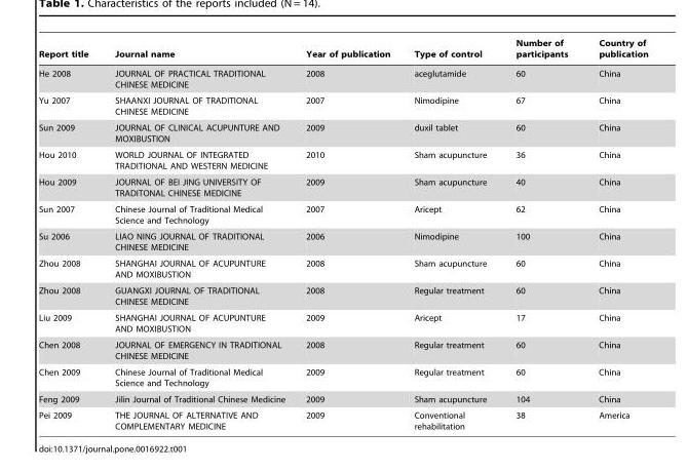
<table><thead><tr><td>Report title</td><td>Journal name</td><td>Year of publication</td><td>Type of control</td><td>Number of participants</td><td>Country of publication</td></tr></thead><tbody><tr><td>He 2008</td><td>JOURNAL OF PRACTICAL TRADITIONAL CHINESE MEDICINE</td><td>2008</td><td>aceglutamide</td><td>60</td><td>China</td></tr><tr><td>Yu 2007</td><td>SHAANXI JOURNAL OF TRADITIONAL CHINESE MEDICINE</td><td>2007</td><td>Nimodipine</td><td>67</td><td>China</td></tr><tr><td>Sun 2009</td><td>JOURNAL OF CLINICAL ACUPUNTURE AND MOXIBUSTION</td><td>2009</td><td>duxil tablet</td><td>60</td><td>China</td></tr><tr><td>Hou 2010</td><td>WORLD JOURNAL OF INTEGRATED TRADITIONAL AND WESTERN MEDICINE</td><td>2010</td><td>Sham acupuncture</td><td>36</td><td>China</td></tr><tr><td>Hou 2009</td><td>JOURNAL OF BEI JING UNIVERSITY OF TRADITONAL CHINESE MEDICINE</td><td>2009</td><td>Sham acupuncture</td><td>40</td><td>China</td></tr><tr><td>Sun 2007</td><td>Chinese Journal of Traditional Medical Science and Technology</td><td>2007</td><td>Aricept</td><td>62</td><td>China</td></tr><tr><td>Su 2006</td><td>LIAO NING JOURNAL OF TRADITIONAL CHINESE MEDICINE</td><td>2006</td><td>Nimodipine</td><td>100</td><td>China</td></tr><tr><td>Zhou 2008</td><td>SHANGHAI JOURNAL OF ACUPUNTURE AND MOXIBUSTION</td><td>2008</td><td>Sham acupuncture</td><td>60</td><td>China</td></tr><tr><td>Zhou 2008</td><td>GUANGXI JOURNAL OF TRADITIONAL CHINESE MEDICINE</td><td>2008</td><td>Regular treatment</td><td>60</td><td>China</td></tr><tr><td>Liu 2009</td><td>SHANGHAI JOURNAL OF ACUPUNTURE AND MOXIBUSTION</td><td>2009</td><td>Aricept</td><td>17</td><td>China</td></tr><tr><td>Chen 2008</td><td>JOURNAL OF EMERGENCY IN TRADITIONAL CHINESE MEDICINE</td><td>2008</td><td>Regular treatment</td><td>60</td><td>China</td></tr><tr><td>Chen 2009</td><td>Chinese Journal of Traditional Medical Science and Technology</td><td>2009</td><td>Regular treatment</td><td>60</td><td>China</td></tr><tr><td>Feng 2009</td><td>Jilin Journal of Traditional Chinese Medicine</td><td>2009</td><td>Sham acupuncture</td><td>104</td><td>China</td></tr><tr><td>Pei 2009</td><td>THE JOURNAL OF ALTERNATIVE AND COMPLEMENTARY MEDICINE</td><td>2009</td><td>Conventional rehabilitation</td><td>38</td><td>America</td></tr></tbody></table>